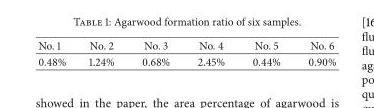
<table><thead><tr><td>No. 1</td><td>No. 2</td><td>No. 3</td><td>No. 4</td><td>No. 5</td><td>No. 6</td></tr></thead><tbody><tr><td>0.48%</td><td>1.24%</td><td>0.68%</td><td>2.45%</td><td>0.44%</td><td>0.90%</td></tr></tbody></table>